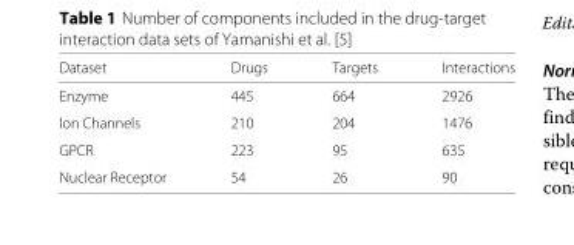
<table><thead><tr><td>Dataset</td><td>Drugs</td><td>Targets</td><td>Interactions</td></tr></thead><tbody><tr><td>Enzyme</td><td>445</td><td>664</td><td>2926</td></tr><tr><td>Ion Channels</td><td>210</td><td>204</td><td>1476</td></tr><tr><td>GPCR</td><td>223</td><td>95</td><td>635</td></tr><tr><td>Nuclear Receptor</td><td>54</td><td>26</td><td>90</td></tr></tbody></table>